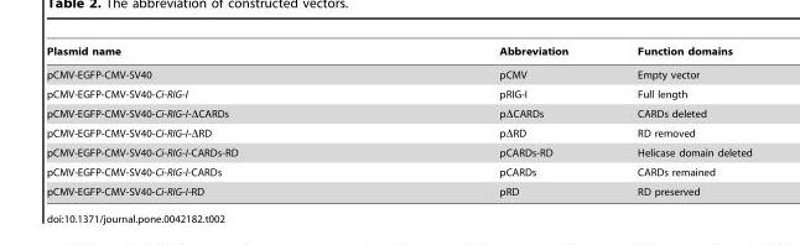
<table><thead><tr><td>Plasmid name</td><td>Abbreviation</td><td>Function domains</td></tr></thead><tbody><tr><td>pCMV-EGFP-CMV-SV40</td><td>pCMV</td><td>Empty vector</td></tr><tr><td>pCMV-EGFP-CMV-SV40-Ci-RIG-I</td><td>pRIG-I</td><td>Full length</td></tr><tr><td>pCMV-EGFP-CMV-SV40-Ci-RIG-I-ΔCARDs</td><td>pΔCARDs</td><td>CARDs deleted</td></tr><tr><td>pCMV-EGFP-CMV-SV40-Ci-RIG-I-ΔRD</td><td>pΔRD</td><td>RD removed</td></tr><tr><td>pCMV-EGFP-CMV-SV40-Ci-RIG-I-CARDs-RD</td><td>pCARDs-RD</td><td>Helicase domain deleted</td></tr><tr><td>pCMV-EGFP-CMV-SV40-Ci-RIG-I-CARDs</td><td>pCARDs</td><td>CARDs remained</td></tr><tr><td>pCMV-EGFP-CMV-SV40-Ci-RIG-I-RD</td><td>pRD</td><td>RD preserved</td></tr></tbody></table>